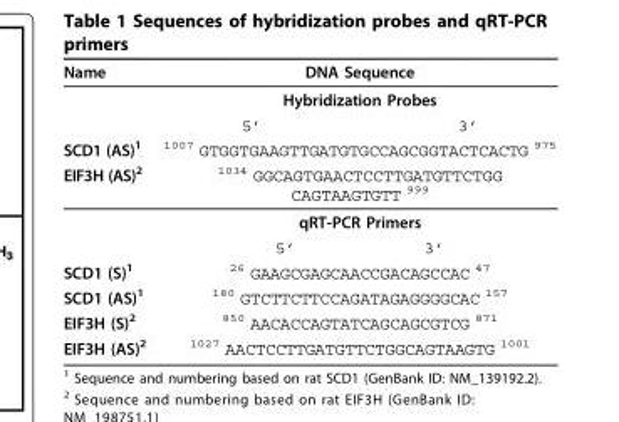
<table><thead><tr><td>Name</td><td>DNA Sequence</td></tr></thead><tbody><tr><td></td><td>Hybridization Probes</td></tr><tr><td></td><td>5’ 3’</td></tr><tr><td>SCD1 (AS)<sup>1</sup></td><td><sup>1007</sup> GTGGTGAAGTTGATGTGCCAGCGGTACTCACTG <sup>975</sup></td></tr><tr><td rowspan="3">EIF3H (AS)<sup>2</sup></td><td><sup>1034</sup> GGCAGTGAACTCCTTGATGTTCTGG CAGTAAGTGTT <sup>999</sup></td></tr><tr><td>qRT-PCR Primers</td></tr><tr><td>5’ 3’</td></tr><tr><td>SCD1 (S)<sup>1</sup></td><td><sup>26</sup> GAAGCGAGCAACCGACAGCCAC <sup>47</sup></td></tr><tr><td>SCD1 (AS)<sup>1</sup></td><td><sup>180</sup> GTCTTCTTCCAGATAGAGGGGCAC <sup>157</sup></td></tr><tr><td>EIF3H (S)<sup>2</sup></td><td><sup>850</sup> AACACCAGTATCAGCAGCGTCG <sup>871</sup></td></tr><tr><td>EIF3H (AS)<sup>2</sup></td><td><sup>1027</sup> AACTCCTTGATGTTCTGGCAGTAAGTG <sup>1001</sup></td></tr></tbody></table>